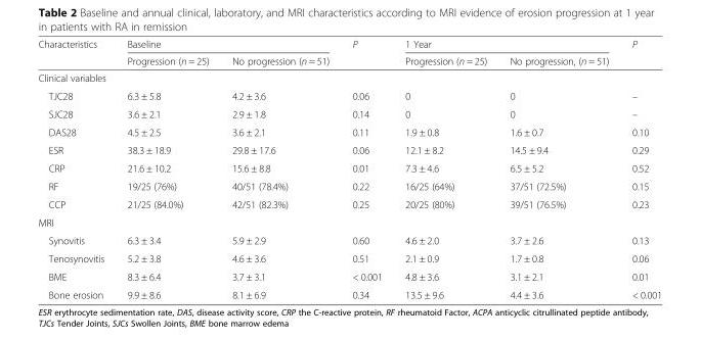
<table><thead><tr><td rowspan="2">Characteristics</td><td colspan="2">Baseline</td><td rowspan="2">P</td><td colspan="2">1 Year</td><td rowspan="2">P</td></tr><tr><td>Progression (n = 25)</td><td>No progression (n = 51)</td><td>Progression (n = 25)</td><td>No progression, (n = 51)</td></tr></thead><tbody><tr><td colspan="7">Clinical variables</td></tr><tr><td>TJC28</td><td>6.3 ± 5.8</td><td>4.2 ± 3.6</td><td>0.06</td><td>0</td><td>0</td><td>–</td></tr><tr><td>SJC28</td><td>3.6 ± 2.1</td><td>2.9 ± 1.8</td><td>0.14</td><td>0</td><td>0</td><td>–</td></tr><tr><td>DAS28</td><td>4.5 ± 2.5</td><td>3.6 ± 2.1</td><td>0.11</td><td>1.9 ± 0.8</td><td>1.6 ± 0.7</td><td>0.10</td></tr><tr><td>ESR</td><td>38.3 ± 18.9</td><td>29.8 ± 17.6</td><td>0.06</td><td>12.1 ± 8.2</td><td>14.5 ± 9.4</td><td>0.29</td></tr><tr><td>CRP</td><td>21.6 ± 10.2</td><td>15.6 ± 8.8</td><td>0.01</td><td>7.3 ± 4.6</td><td>6.5 ± 5.2</td><td>0.52</td></tr><tr><td>RF</td><td>19/25 (76%)</td><td>40/51 (78.4%)</td><td>0.22</td><td>16/25 (64%)</td><td>37/51 (72.5%)</td><td>0.15</td></tr><tr><td>CCP</td><td>21/25 (84.0%)</td><td>42/51 (82.3%)</td><td>0.25</td><td>20/25 (80%)</td><td>39/51 (76.5%)</td><td>0.23</td></tr><tr><td colspan="7">MRI</td></tr><tr><td>Synovitis</td><td>6.3 ± 3.4</td><td>5.9 ± 2.9</td><td>0.60</td><td>4.6 ± 2.0</td><td>3.7 ± 2.6</td><td>0.13</td></tr><tr><td>Tenosynovitis</td><td>5.2 ± 3.8</td><td>4.6 ± 3.6</td><td>0.51</td><td>2.1 ± 0.9</td><td>1.7 ± 0.8</td><td>0.06</td></tr><tr><td>BME</td><td>8.3 ± 6.4</td><td>3.7 ± 3.1</td><td>&lt; 0.001</td><td>4.8 ± 3.6</td><td>3.1 ± 2.1</td><td>0.01</td></tr><tr><td>Bone erosion</td><td>9.9 ± 8.6</td><td>8.1 ± 6.9</td><td>0.34</td><td>13.5 ± 9.6</td><td>4.4 ± 3.6</td><td>&lt; 0.001</td></tr></tbody></table>